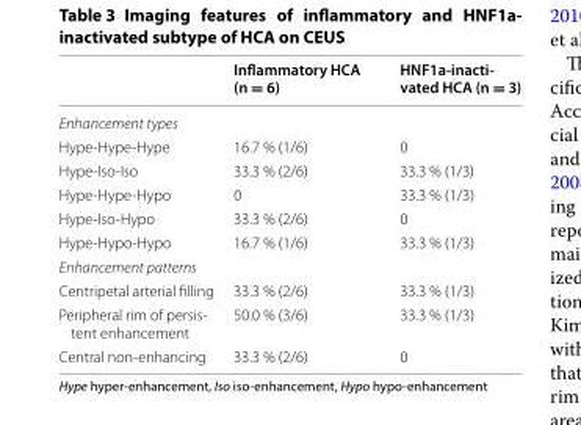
<table><thead><tr><td></td><td>Inflammatory HCA (n = 6)</td><td>HNF1a‑inacti‑ vated HCA (n = 3)</td></tr></thead><tbody><tr><td colspan="3">Enhancement types</td></tr><tr><td>Hype‑Hype‑Hype</td><td>16.7 % (1/6)</td><td>0</td></tr><tr><td>Hype‑Iso‑Iso</td><td>33.3 % (2/6)</td><td>33.3 % (1/3)</td></tr><tr><td>Hype‑Hype‑Hypo</td><td>0</td><td>33.3 % (1/3)</td></tr><tr><td>Hype‑Iso‑Hypo</td><td>33.3 % (2/6)</td><td>0</td></tr><tr><td>Hype‑Hypo‑Hypo</td><td>16.7 % (1/6)</td><td>33.3 % (1/3)</td></tr><tr><td colspan="3">Enhancement patterns</td></tr><tr><td>Centripetal arterial filling</td><td>33.3 % (2/6)</td><td>33.3 % (1/3)</td></tr><tr><td>Peripheral rim of persis‑ tent enhancement</td><td>50.0 % (3/6)</td><td>33.3 % (1/3)</td></tr><tr><td>Central non‑enhancing</td><td>33.3 % (2/6)</td><td>0</td></tr></tbody></table>